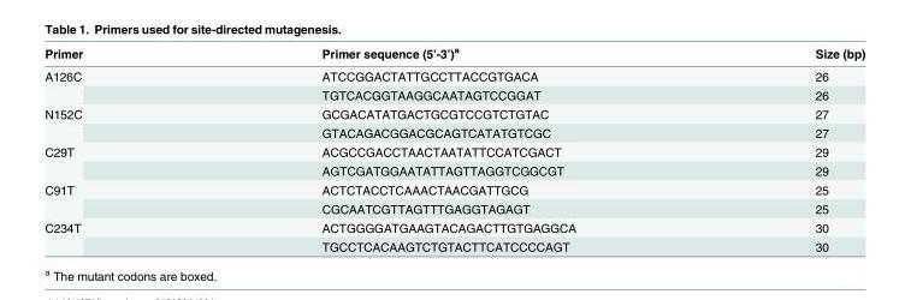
<table><thead><tr><td>Primer</td><td>Primer sequence (5’-3’)<sup>a</sup></td><td>Size (bp)</td></tr></thead><tbody><tr><td rowspan="2">A126C</td><td>ATCCGGACTATTGCCTTACCGTGACA</td><td>26</td></tr><tr><td>TGTCACGGTAAGGCAATAGTCCGGAT</td><td>26</td></tr><tr><td rowspan="2">N152C</td><td>GCGACATATGACTGCGTCCGTCTGTAC</td><td>27</td></tr><tr><td>GTACAGACGGACGCAGTCATATGTCGC</td><td>27</td></tr><tr><td rowspan="2">C29T</td><td>ACGCCGACCTAACTAATATTCCATCGACT</td><td>29</td></tr><tr><td>AGTCGATGGAATATTAGTTAGGTCGGCGT</td><td>29</td></tr><tr><td rowspan="2">C91T</td><td>ACTCTACCTCAAACTAACGATTGCG</td><td>25</td></tr><tr><td>CGCAATCGTTAGTTTGAGGTAGAGT</td><td>25</td></tr><tr><td rowspan="2">C234T</td><td>ACTGGGGATGAAGTACAGACTTGTGAGGCA</td><td>30</td></tr><tr><td>TGCCTCACAAGTCTGTACTTCATCCCCAGT</td><td>30</td></tr></tbody></table>